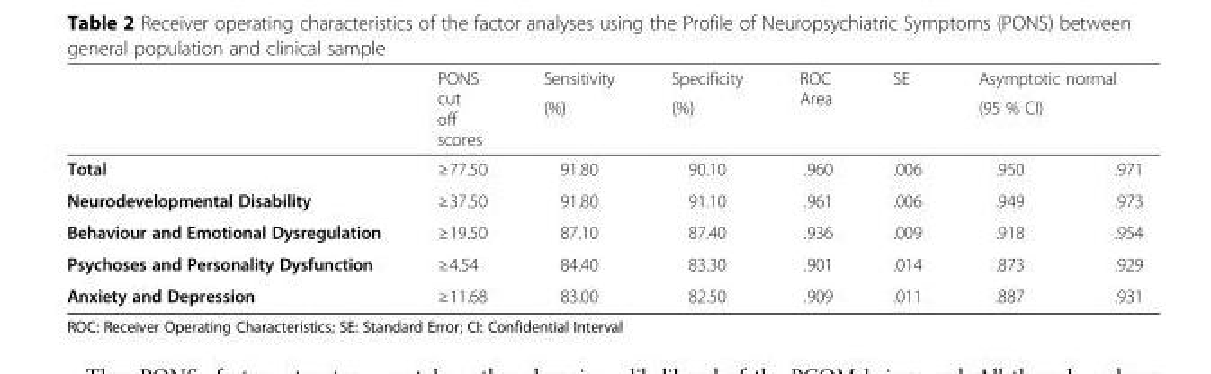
<table><thead><tr><td rowspan="3">Total</td><td rowspan="3">PONS cut off scores ≥77.50</td><td rowspan="3">Sensitivity (%) 91.80</td><td rowspan="3">Specificity (%) 90.10</td><td rowspan="3">ROC Area .960</td><td rowspan="3">SE .006</td><td rowspan="2" colspan="2">Asymptotic normal (95 % CI)</td></tr><tr></tr><tr><td>.950</td><td>.971</td></tr></thead><tbody><tr><td>Neurodevelopmental Disability</td><td>≥37.50</td><td>91.80</td><td>91.10</td><td>.961</td><td>.006</td><td>.949</td><td>.973</td></tr><tr><td>Behaviour and Emotional Dysregulation</td><td>≥19.50</td><td>87.10</td><td>87.40</td><td>.936</td><td>.009</td><td>.918</td><td>.954</td></tr><tr><td>Psychoses and Personality Dysfunction</td><td>≥4.54</td><td>84.40</td><td>83.30</td><td>.901</td><td>.014</td><td>.873</td><td>.929</td></tr><tr><td>Anxiety and Depression</td><td>≥11.68</td><td>83.00</td><td>82.50</td><td>.909</td><td>.011</td><td>.887</td><td>.931</td></tr></tbody></table>